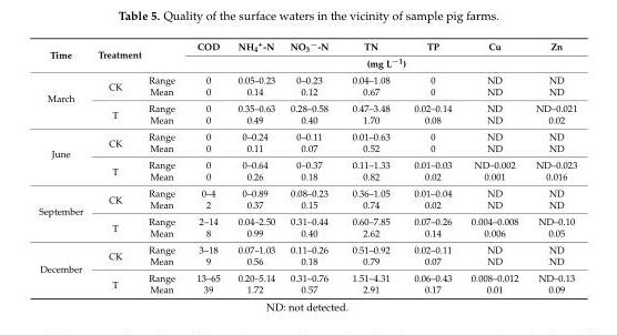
<table><thead><tr><td rowspan="2">Time</td><td rowspan="2">Treatment</td><td rowspan="2"></td><td>COD</td><td>NH<sub>4</sub><sup>+</sup>-N</td><td>NO<sub>3</sub><sup>−</sup>-N</td><td>TN</td><td>TP</td><td>Cu</td><td>Zn</td></tr><tr><td colspan="7">(mg L<sup>−1</sup>)</td></tr></thead><tbody><tr><td rowspan="4">March</td><td rowspan="2">CK</td><td>Range</td><td>0</td><td>0.05–0.23</td><td>0–0.23</td><td>0.04–1.08</td><td>0</td><td>ND</td><td>ND</td></tr><tr><td>Mean</td><td>0</td><td>0.14</td><td>0.12</td><td>0.67</td><td>0</td><td>ND</td><td>ND</td></tr><tr><td rowspan="2">T</td><td>Range</td><td>0</td><td>0.35–0.63</td><td>0.28–0.58</td><td>0.47–3.48</td><td>0.02–0.14</td><td>ND</td><td>ND–0.021</td></tr><tr><td>Mean</td><td>0</td><td>0.49</td><td>0.40</td><td>1.70</td><td>0.08</td><td>ND</td><td>0.02</td></tr><tr><td rowspan="4">June</td><td rowspan="2">CK</td><td>Range</td><td>0</td><td>0–0.24</td><td>0–0.11</td><td>0.01–0.63</td><td>0</td><td>ND</td><td>ND</td></tr><tr><td>Mean</td><td>0</td><td>0.11</td><td>0.07</td><td>0.52</td><td>0</td><td>ND</td><td>ND</td></tr><tr><td rowspan="2">T</td><td>Range</td><td>0</td><td>0–0.64</td><td>0–0.37</td><td>0.11–1.33</td><td>0.01–0.03</td><td>ND–0.002</td><td>ND–0.023</td></tr><tr><td>Mean</td><td>0</td><td>0.26</td><td>0.18</td><td>0.82</td><td>0.02</td><td>0.001</td><td>0.016</td></tr><tr><td rowspan="4">September</td><td rowspan="2">CK</td><td>Range</td><td>0–4</td><td>0–0.89</td><td>0.08–0.23</td><td>0.36–1.05</td><td>0.01–0.04</td><td>ND</td><td>ND</td></tr><tr><td>Mean</td><td>2</td><td>0.37</td><td>0.15</td><td>0.74</td><td>0.02</td><td>ND</td><td>ND</td></tr><tr><td rowspan="2">T</td><td>Range</td><td>2–14</td><td>0.04–2.50</td><td>0.31–0.44</td><td>0.60–7.85</td><td>0.07–0.26</td><td>0.004–0.008</td><td>ND–0.10</td></tr><tr><td>Mean</td><td>8</td><td>0.99</td><td>0.40</td><td>2.62</td><td>0.14</td><td>0.006</td><td>0.05</td></tr><tr><td rowspan="4">December</td><td rowspan="2">CK</td><td>Range</td><td>3–18</td><td>0.07–1.03</td><td>0.11–0.26</td><td>0.51–0.92</td><td>0.02–0.11</td><td>ND</td><td>ND</td></tr><tr><td>Mean</td><td>9</td><td>0.56</td><td>0.18</td><td>0.79</td><td>0.07</td><td>ND</td><td>ND</td></tr><tr><td rowspan="2">T</td><td>Range</td><td>13–65</td><td>0.20–5.14</td><td>0.31–0.76</td><td>1.51–4.31</td><td>0.06–0.43</td><td>0.008–0.012</td><td>ND–0.13</td></tr><tr><td>Mean</td><td>39</td><td>1.72</td><td>0.57</td><td>2.91</td><td>0.17</td><td>0.01</td><td>0.09</td></tr></tbody></table>